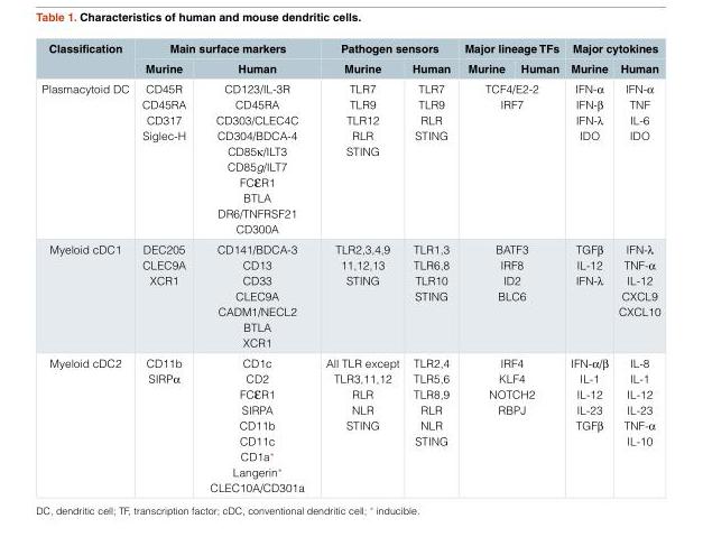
<table><thead><tr><td rowspan="2">Classification</td><td colspan="2">Main surface markers</td><td colspan="2">Pathogen sensors</td><td colspan="2">Major lineage TFs</td><td colspan="2">Major cytokines</td></tr><tr><td>Murine</td><td>Human</td><td>Murine</td><td>Human</td><td>Murine</td><td>Human</td><td>Murine</td><td>Human</td></tr></thead><tbody><tr><td>Plasmacytoid DC</td><td>CD45R CD45RA CD317 Siglec-H</td><td>CD123/IL-3R CD45RA CD303/CLEC4C CD304/BDCA-4 CD85κ/ILT3 CD85g/ILT7 FCεR1 BTLA DR6/TNFRSF21 CD300A</td><td>TLR7 TLR9 TLR12 RLR STING</td><td>TLR7 TLR9 RLR STING</td><td colspan="2">TCF4/E2-2 IRF7</td><td>IFN-α IFN-β IFN-λ IDO</td><td>IFN-α TNF IL-6 IDO</td></tr><tr><td>Myeloid cDC1</td><td>DEC205 CLEC9A XCR1</td><td>CD141/BDCA-3 CD13 CD33 CLEC9A CADM1/NECL2 BTLA XCR1</td><td>TLR2,3,4,9 11,12,13 STING</td><td>TLR1,3 TLR6,8 TLR10 STING</td><td colspan="2">BATF3 IRF8 ID2 BLC6</td><td>TGFβ IL-12 IFN-λ</td><td>IFN-λ TNF-α IL-12 CXCL9 CXCL10</td></tr><tr><td>Myeloid cDC2</td><td>CD11b SIRPα</td><td>CD1c CD2 FCεR1 SIRPA CD11b CD11c CD1a* Langerin* CLEC10A/CD301a</td><td>All TLR except TLR3,11,12 RLR NLR STING</td><td>TLR2,4 TLR5,6 TLR8,9 RLR NLR STING</td><td colspan="2">IRF4 KLF4 NOTCH2 RBPJ</td><td>IFN-α/β IL-1 IL-12 IL-23 TGFβ</td><td>IL-8 IL-1 IL-12 IL-23 TNF-α IL-10</td></tr></tbody></table>